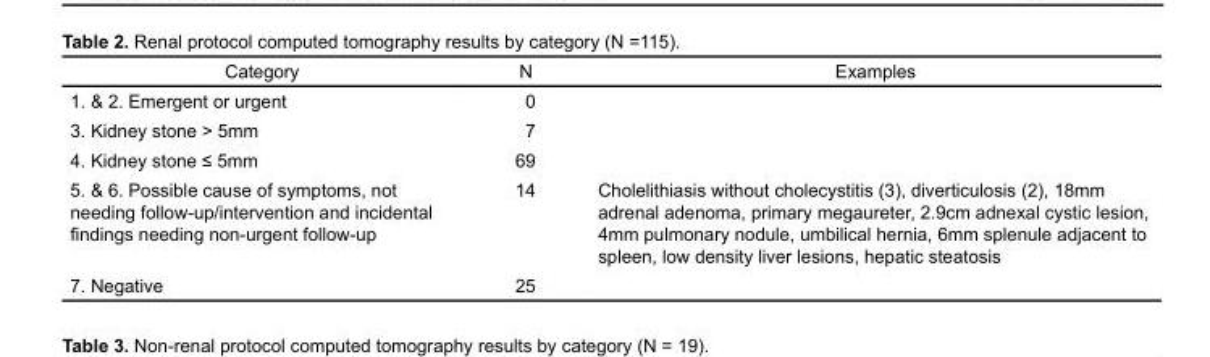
<table><thead><tr><td>Category</td><td>N</td><td>Examples</td></tr></thead><tbody><tr><td>1. &amp; 2. Emergent or urgent</td><td>0</td><td></td></tr><tr><td>3. Kidney stone &gt; 5mm</td><td>7</td><td></td></tr><tr><td>4. Kidney stone ≤ 5mm</td><td>69</td><td></td></tr><tr><td>5. &amp; 6. Possible cause of symptoms, not needing follow-up/intervention and incidental findings needing non-urgent follow-up</td><td>14</td><td>Cholelithiasis without cholecystitis (3), diverticulosis (2), 18mm adrenal adenoma, primary megaureter, 2.9cm adnexal cystic lesion, 4mm pulmonary nodule, umbilical hernia, 6mm splenule adjacent to spleen, low density liver lesions, hepatic steatosis</td></tr><tr><td>7. Negative</td><td>25</td><td></td></tr></tbody></table>